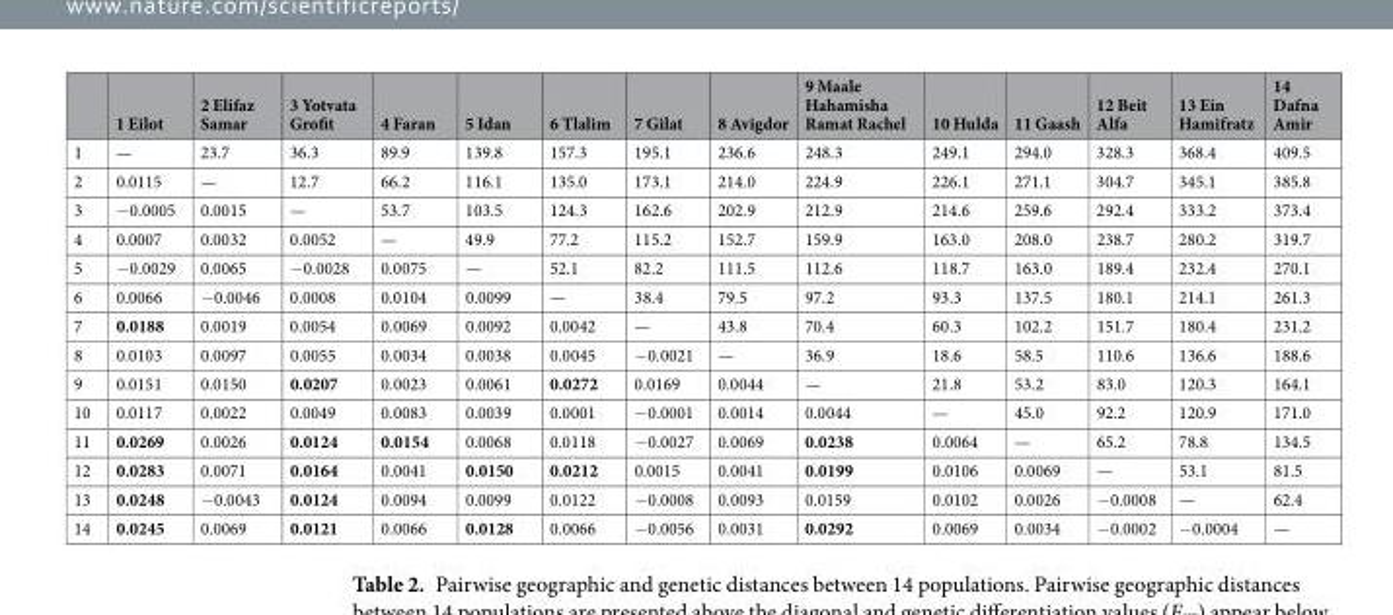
<table><thead><tr><td></td><td>1 Eilot</td><td>2 Elifaz Samar</td><td>3 Yotvata Grofit</td><td>4 Faran</td><td>5 Idan</td><td>6 Tlalim</td><td>7 Gilat</td><td>8 Avigdor</td><td>9 Maale Hahamisha Ramat Rachel</td><td>10 Hulda</td><td>11 Gaash</td><td>12 Beit Alfa</td><td>13 Ein Hamifratz</td><td>14 Dafna Amir</td></tr></thead><tbody><tr><td>1</td><td>—</td><td>23.7</td><td>36.3</td><td>89.9</td><td>139.8</td><td>157.3</td><td>195.1</td><td>236.6</td><td>248.3</td><td>249.1</td><td>294.0</td><td>328.3</td><td>368.4</td><td>409.5</td></tr><tr><td>2</td><td>0.0115</td><td>—</td><td>12.7</td><td>66.2</td><td>116.1</td><td>135.0</td><td>173.1</td><td>214.0</td><td>224.9</td><td>226.1</td><td>271.1</td><td>304.7</td><td>345.1</td><td>385.8</td></tr><tr><td>3</td><td>−0.0005</td><td>0.0015</td><td>—</td><td>53.7</td><td>103.5</td><td>124.3</td><td>162.6</td><td>202.9</td><td>212.9</td><td>214.6</td><td>259.6</td><td>292.4</td><td>333.2</td><td>373.4</td></tr><tr><td>4</td><td>0.0007</td><td>0.0032</td><td>0.0052</td><td>—</td><td>49.9</td><td>77.2</td><td>115.2</td><td>152.7</td><td>159.9</td><td>163.0</td><td>208.0</td><td>238.7</td><td>280.2</td><td>319.7</td></tr><tr><td>5</td><td>−0.0029</td><td>0.0065</td><td>−0.0028</td><td>0.0075</td><td>—</td><td>52.1</td><td>82.2</td><td>111.5</td><td>112.6</td><td>118.7</td><td>163.0</td><td>189.4</td><td>232.4</td><td>270.1</td></tr><tr><td>6</td><td>0.0066</td><td>−0.0046</td><td>0.0008</td><td>0.0104</td><td>0.0099</td><td>—</td><td>38.4</td><td>79.5</td><td>97.2</td><td>93.3</td><td>137.5</td><td>180.1</td><td>214.1</td><td>261.3</td></tr><tr><td>7</td><td>0.0188</td><td>0.0019</td><td>0.0054</td><td>0.0069</td><td>0.0092</td><td>0.0042</td><td>—</td><td>43.8</td><td>70.4</td><td>60.3</td><td>102.2</td><td>151.7</td><td>180.4</td><td>231.2</td></tr><tr><td>8</td><td>0.0103</td><td>0.0097</td><td>0.0055</td><td>0.0034</td><td>0.0038</td><td>0.0045</td><td>−0.0021</td><td>—</td><td>36.9</td><td>18.6</td><td>58.5</td><td>110.6</td><td>136.6</td><td>188.6</td></tr><tr><td>9</td><td>0.0151</td><td>0.0150</td><td>0.0207</td><td>0.0023</td><td>0.0061</td><td>0.0272</td><td>0.0169</td><td>0.0044</td><td>—</td><td>21.8</td><td>53.2</td><td>83.0</td><td>120.3</td><td>164.1</td></tr><tr><td>10</td><td>0.0117</td><td>0.0022</td><td>0.0049</td><td>0.0083</td><td>0.0039</td><td>0.0001</td><td>−0.0001</td><td>0.0014</td><td>0.0044</td><td>—</td><td>45.0</td><td>92.2</td><td>120.9</td><td>171.0</td></tr><tr><td>11</td><td>0.0269</td><td>0.0026</td><td>0.0124</td><td>0.0154</td><td>0.0068</td><td>0.0118</td><td>−0.0027</td><td>0.0069</td><td>0.0238</td><td>0.0064</td><td>—</td><td>65.2</td><td>78.8</td><td>134.5</td></tr><tr><td>12</td><td>0.0283</td><td>0.0071</td><td>0.0164</td><td>0.0041</td><td>0.0150</td><td>0.0212</td><td>0.0015</td><td>0.0041</td><td>0.0199</td><td>0.0106</td><td>0.0069</td><td>—</td><td>53.1</td><td>81.5</td></tr><tr><td>13</td><td>0.0248</td><td>−0.0043</td><td>0.0124</td><td>0.0094</td><td>0.0099</td><td>0.0122</td><td>−0.0008</td><td>0.0093</td><td>0.0159</td><td>0.0102</td><td>0.0026</td><td>−0.0008</td><td>—</td><td>62.4</td></tr><tr><td>14</td><td>0.0245</td><td>0.0069</td><td>0.0121</td><td>0.0066</td><td>0.0128</td><td>0.0066</td><td>−0.0056</td><td>0.0031</td><td>0.0292</td><td>0.0069</td><td>0.0034</td><td>−0.0002</td><td>−0.0004</td><td>—</td></tr></tbody></table>